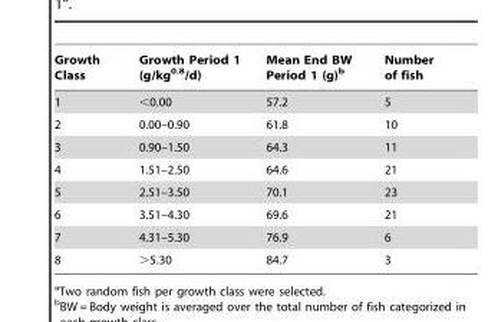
<table><thead><tr><td>Growth Class</td><td>Growth Period 1 (g/kg<sup>0.8</sup>/d)</td><td>Mean End BW Period 1 (g)<sup>b</sup></td><td>Number of fish</td></tr></thead><tbody><tr><td>1</td><td>&lt;0.00</td><td>57.2</td><td>5</td></tr><tr><td>2</td><td>0.00–0.90</td><td>61.8</td><td>10</td></tr><tr><td>3</td><td>0.90–1.50</td><td>64.3</td><td>11</td></tr><tr><td>4</td><td>1.51–2.50</td><td>64.6</td><td>21</td></tr><tr><td>5</td><td>2.51–3.50</td><td>70.1</td><td>23</td></tr><tr><td>6</td><td>3.51–4.30</td><td>69.6</td><td>21</td></tr><tr><td>7</td><td>4.31–5.30</td><td>76.9</td><td>6</td></tr><tr><td>8</td><td>&gt;5.30</td><td>84.7</td><td>3</td></tr></tbody></table>